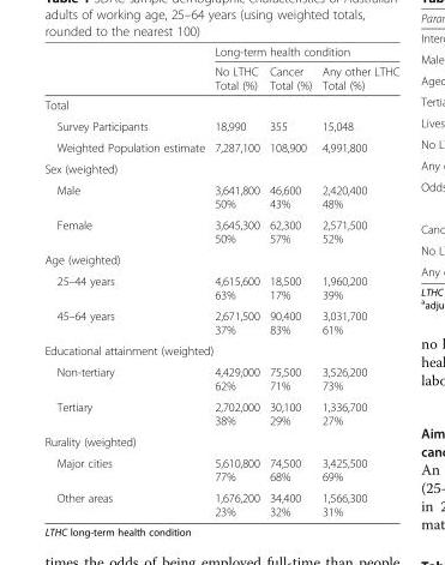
<table><thead><tr><td rowspan="2"></td><td colspan="3">Long-term health condition</td></tr><tr><td>No LTHC Total (%)</td><td>Cancer Total (%)</td><td>Any other LTHC Total (%)</td></tr></thead><tbody><tr><td colspan="4">Total</td></tr><tr><td>Survey Participants</td><td>18,990</td><td>355</td><td>15,048</td></tr><tr><td>Weighted Population estimate</td><td>7,287,100</td><td>108,900</td><td>4,991,800</td></tr><tr><td colspan="4">Sex (weighted)</td></tr><tr><td>Male</td><td>3,641,800 50%</td><td>46,600 43%</td><td>2,420,400 48%</td></tr><tr><td>Female</td><td>3,645,300 50%</td><td>62,300 57%</td><td>2,571,500 52%</td></tr><tr><td colspan="4">Age (weighted)</td></tr><tr><td>25–44 years</td><td>4,615,600 63%</td><td>18,500 17%</td><td>1,960,200 39%</td></tr><tr><td>45–64 years</td><td>2,671,500 37%</td><td>90,400 83%</td><td>3,031,700 61%</td></tr><tr><td colspan="4">Educational attainment (weighted)</td></tr><tr><td>Non-tertiary</td><td>4,429,000 62%</td><td>75,500 71%</td><td>3,526,200 73%</td></tr><tr><td>Tertiary</td><td>2,702,000 38%</td><td>30,100 29%</td><td>1,336,700 27%</td></tr><tr><td colspan="4">Rurality (weighted)</td></tr><tr><td>Major cities</td><td>5,610,800 77%</td><td>74,500 68%</td><td>3,425,500 69%</td></tr><tr><td>Other areas</td><td>1,676,200 23%</td><td>34,400 32%</td><td>1,566,300 31%</td></tr></tbody></table>